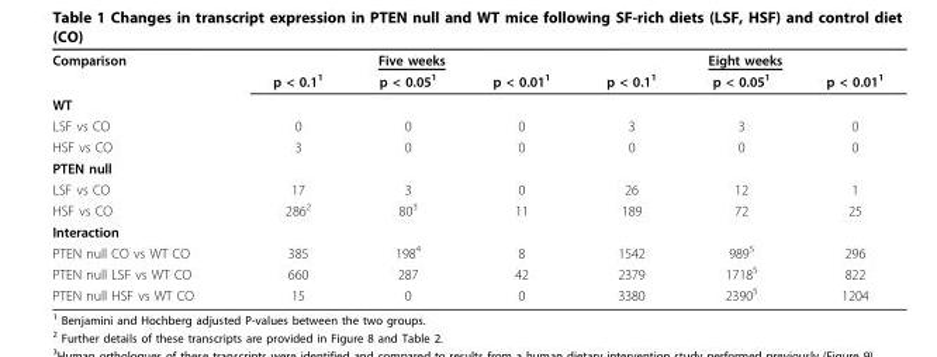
<table><tbody><tr><td rowspan="2">Comparison</td><td colspan="3">Five weeks</td><td colspan="3">Eight weeks</td></tr><tr><td>p &lt; 0.1<sup>1</sup></td><td>p &lt; 0.05<sup>1</sup></td><td>p &lt; 0.01<sup>1</sup></td><td>p &lt; 0.1<sup>1</sup></td><td>p &lt; 0.05<sup>1</sup></td><td>p &lt; 0.01<sup>1</sup></td></tr><tr><td colspan="7">WT</td></tr><tr><td>LSF vs CO</td><td>0</td><td>0</td><td>0</td><td>3</td><td>3</td><td>0</td></tr><tr><td>HSF vs CO</td><td>3</td><td>0</td><td>0</td><td>0</td><td>0</td><td>0</td></tr><tr><td colspan="7">PTEN null</td></tr><tr><td>LSF vs CO</td><td>17</td><td>3</td><td>0</td><td>26</td><td>12</td><td>1</td></tr><tr><td>HSF vs CO</td><td>286<sup>2</sup></td><td>80<sup>3</sup></td><td>11</td><td>189</td><td>72</td><td>25</td></tr><tr><td colspan="7">Interaction</td></tr><tr><td>PTEN null CO vs WT CO</td><td>385</td><td>198<sup>4</sup></td><td>8</td><td>1542</td><td>989<sup>5</sup></td><td>296</td></tr><tr><td>PTEN null LSF vs WT CO</td><td>660</td><td>287</td><td>42</td><td>2379</td><td>1718<sup>5</sup></td><td>822</td></tr><tr><td>PTEN null HSF vs WT CO</td><td>15</td><td>0</td><td>0</td><td>3380</td><td>2390<sup>5</sup></td><td>1204</td></tr></tbody></table>